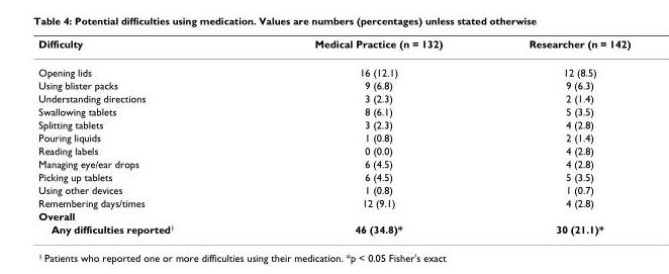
<table><thead><tr><td>Difficulty</td><td>Medical Practice (n = 132)</td><td>Researcher (n = 142)</td></tr></thead><tbody><tr><td>Opening lids</td><td>16 (12.1)</td><td>12 (8.5)</td></tr><tr><td>Using blister packs</td><td>9 (6.8)</td><td>9 (6.3)</td></tr><tr><td>Understanding directions</td><td>3 (2.3)</td><td>2 (1.4)</td></tr><tr><td>Swallowing tablets</td><td>8 (6.1)</td><td>5 (3.5)</td></tr><tr><td>Splitting tablets</td><td>3 (2.3)</td><td>4 (2.8)</td></tr><tr><td>Pouring liquids</td><td>1 (0.8)</td><td>2 (1.4)</td></tr><tr><td>Reading labels</td><td>0 (0.0)</td><td>4 (2.8)</td></tr><tr><td>Managing eye/ear drops</td><td>6 (4.5)</td><td>4 (2.8)</td></tr><tr><td>Picking up tablets</td><td>6 (4.5)</td><td>5 (3.5)</td></tr><tr><td>Using other devices</td><td>1 (0.8)</td><td>1 (0.7)</td></tr><tr><td>Remembering days/times</td><td>12 (9.1)</td><td>4 (2.8)</td></tr><tr><td colspan="3">Overall</td></tr><tr><td>Any difficulties reported<sup>1</sup></td><td>46 (34.8)*</td><td>30 (21.1)*</td></tr></tbody></table>